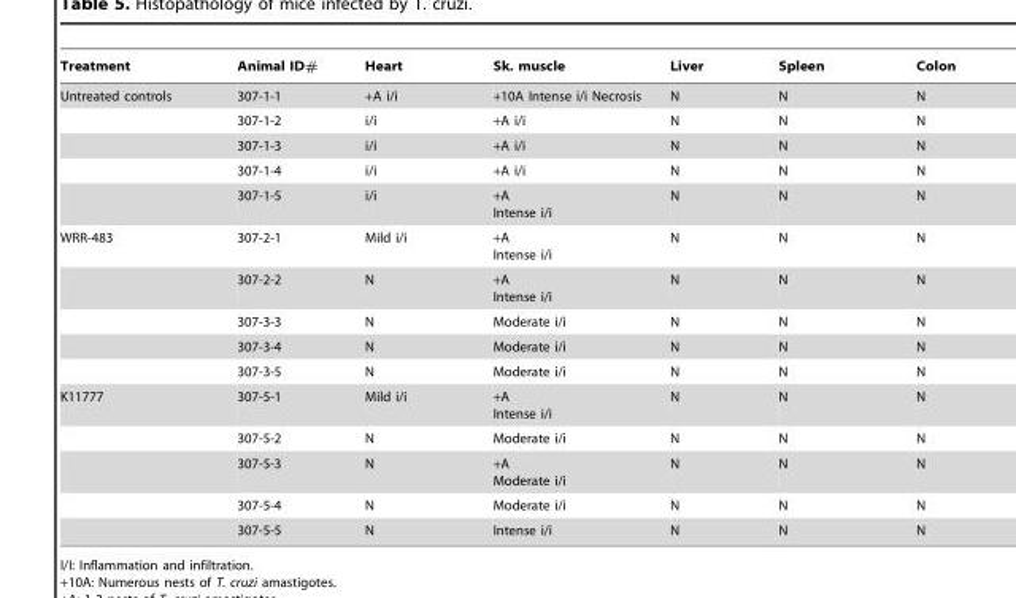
<table><thead><tr><td>Treatment</td><td>Animal ID#</td><td>Heart</td><td>Sk. muscle</td><td>Liver</td><td>Spleen</td><td>Colon</td></tr></thead><tbody><tr><td rowspan="5">Untreated controls</td><td>307-1-1</td><td>+A i/i</td><td>+10A Intense i/i Necrosis</td><td>N</td><td>N</td><td>N</td></tr><tr><td>307-1-2</td><td>i/i</td><td>+A i/i</td><td>N</td><td>N</td><td>N</td></tr><tr><td>307-1-3</td><td>i/i</td><td>+A i/i</td><td>N</td><td>N</td><td>N</td></tr><tr><td>307-1-4</td><td>i/i</td><td>+A i/i</td><td>N</td><td>N</td><td>N</td></tr><tr><td>307-1-5</td><td>i/i</td><td>+A Intense i/i</td><td>N</td><td>N</td><td>N</td></tr><tr><td rowspan="5">WRR-483</td><td>307-2-1</td><td>Mild i/i</td><td>+A Intense i/i</td><td>N</td><td>N</td><td>N</td></tr><tr><td>307-2-2</td><td>N</td><td>+A Intense i/i</td><td>N</td><td>N</td><td>N</td></tr><tr><td>307-3-3</td><td>N</td><td>Moderate i/i</td><td>N</td><td>N</td><td>N</td></tr><tr><td>307-3-4</td><td>N</td><td>Moderate i/i</td><td>N</td><td>N</td><td>N</td></tr><tr><td>307-3-5</td><td>N</td><td>Moderate i/i</td><td>N</td><td>N</td><td>N</td></tr><tr><td rowspan="5">K11777</td><td>307-5-1</td><td>Mild i/i</td><td>+A Intense i/i</td><td>N</td><td>N</td><td>N</td></tr><tr><td>307-5-2</td><td>N</td><td>Moderate i/i</td><td>N</td><td>N</td><td>N</td></tr><tr><td>307-5-3</td><td>N</td><td>+A Moderate i/i</td><td>N</td><td>N</td><td>N</td></tr><tr><td>307-5-4</td><td>N</td><td>Moderate i/i</td><td>N</td><td>N</td><td>N</td></tr><tr><td>307-5-5</td><td>N</td><td>Intense i/i</td><td>N</td><td>N</td><td>N</td></tr></tbody></table>